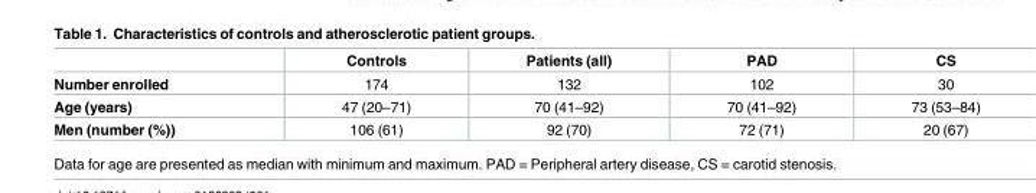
<table><thead><tr><td></td><td>Controls</td><td>Patients (all)</td><td>PAD</td><td>CS</td></tr></thead><tbody><tr><td>Number enrolled</td><td>174</td><td>132</td><td>102</td><td>30</td></tr><tr><td>Age (years)</td><td>47 (20–71)</td><td>70 (41–92)</td><td>70 (41–92)</td><td>73 (53–84)</td></tr><tr><td>Men (number (%))</td><td>106 (61)</td><td>92 (70)</td><td>72 (71)</td><td>20 (67)</td></tr></tbody></table>